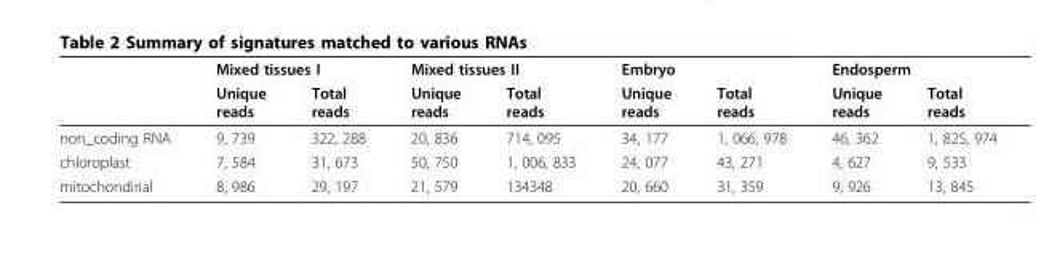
<table><thead><tr><td rowspan="2"></td><td colspan="2">Mixed tissues I</td><td colspan="2">Mixed tissues II</td><td colspan="2">Embryo</td><td colspan="2">Endosperm</td></tr><tr><td>Unique reads</td><td>Total reads</td><td>Unique reads</td><td>Total reads</td><td>Unique reads</td><td>Total reads</td><td>Unique reads</td><td>Total reads</td></tr></thead><tbody><tr><td>non_coding RNA</td><td>9, 739</td><td>322, 288</td><td>20, 836</td><td>714, 095</td><td>34, 177</td><td>1, 066, 978</td><td>46, 362</td><td>1, 825, 974</td></tr><tr><td>chloroplast</td><td>7, 584</td><td>31, 673</td><td>50, 750</td><td>1, 006, 833</td><td>24, 077</td><td>43, 271</td><td>4, 627</td><td>9, 533</td></tr><tr><td>mitochondirial</td><td>8, 986</td><td>29, 197</td><td>21, 579</td><td>134348</td><td>20, 660</td><td>31, 359</td><td>9, 926</td><td>13, 845</td></tr></tbody></table>